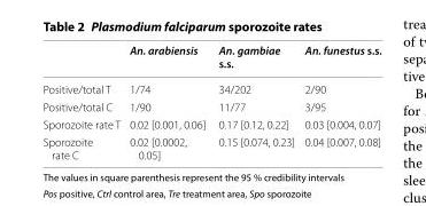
<table><thead><tr><td></td><td>An. arabiensis</td><td>An. gambiae s.s.</td><td>An. funestus s.s.</td></tr></thead><tbody><tr><td>Positive/total T</td><td>1/74</td><td>34/202</td><td>2/90</td></tr><tr><td>Positive/total C</td><td>1/90</td><td>11/77</td><td>3/95</td></tr><tr><td>Sporozoite rate T</td><td>0.02 [0.001, 0.06]</td><td>0.17 [0.12, 0.22]</td><td>0.03 [0.004, 0.07]</td></tr><tr><td>Sporozoite rate C</td><td>0.02 [0.0002, 0.05]</td><td>0.15 [0.074, 0.23]</td><td>0.04 [0.007, 0.08]</td></tr></tbody></table>